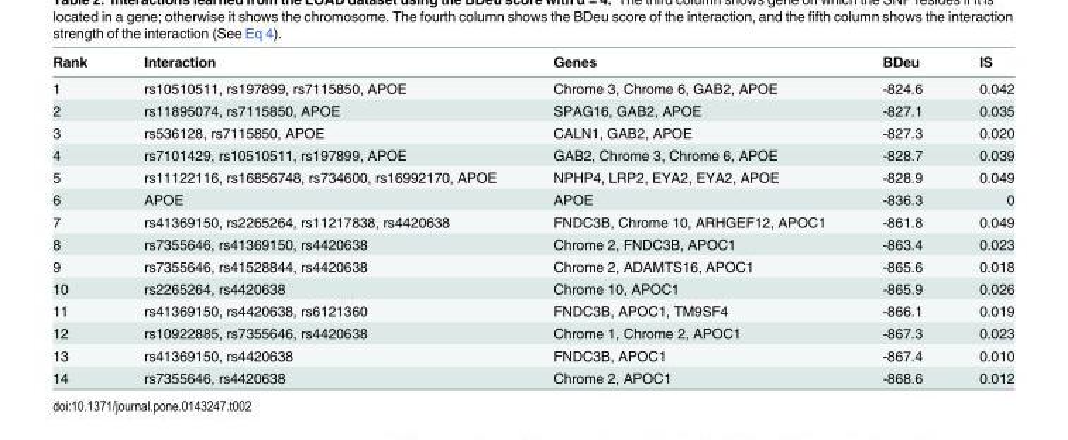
<table><thead><tr><td>Rank</td><td>Interaction</td><td>Genes</td><td>BDeu</td><td>IS</td></tr></thead><tbody><tr><td>1</td><td>rs10510511, rs197899, rs7115850, APOE</td><td>Chrome 3, Chrome 6, GAB2, APOE</td><td>-824.6</td><td>0.042</td></tr><tr><td>2</td><td>rs11895074, rs7115850, APOE</td><td>SPAG16, GAB2, APOE</td><td>-827.1</td><td>0.035</td></tr><tr><td>3</td><td>rs536128, rs7115850, APOE</td><td>CALN1, GAB2, APOE</td><td>-827.3</td><td>0.020</td></tr><tr><td>4</td><td>rs7101429, rs10510511, rs197899, APOE</td><td>GAB2, Chrome 3, Chrome 6, APOE</td><td>-828.7</td><td>0.039</td></tr><tr><td>5</td><td>rs11122116, rs16856748, rs734600, rs16992170, APOE</td><td>NPHP4, LRP2, EYA2, EYA2, APOE</td><td>-828.9</td><td>0.049</td></tr><tr><td>6</td><td>APOE</td><td>APOE</td><td>-836.3</td><td>0</td></tr><tr><td>7</td><td>rs41369150, rs2265264, rs11217838, rs4420638</td><td>FNDC3B, Chrome 10, ARHGEF12, APOC1</td><td>-861.8</td><td>0.049</td></tr><tr><td>8</td><td>rs7355646, rs41369150, rs4420638</td><td>Chrome 2, FNDC3B, APOC1</td><td>-863.4</td><td>0.023</td></tr><tr><td>9</td><td>rs7355646, rs41528844, rs4420638</td><td>Chrome 2, ADAMTS16, APOC1</td><td>-865.6</td><td>0.018</td></tr><tr><td>10</td><td>rs2265264, rs4420638</td><td>Chrome 10, APOC1</td><td>-865.9</td><td>0.026</td></tr><tr><td>11</td><td>rs41369150, rs4420638, rs6121360</td><td>FNDC3B, APOC1, TM9SF4</td><td>-866.1</td><td>0.019</td></tr><tr><td>12</td><td>rs10922885, rs7355646, rs4420638</td><td>Chrome 1, Chrome 2, APOC1</td><td>-867.3</td><td>0.023</td></tr><tr><td>13</td><td>rs41369150, rs4420638</td><td>FNDC3B, APOC1</td><td>-867.4</td><td>0.010</td></tr><tr><td>14</td><td>rs7355646, rs4420638</td><td>Chrome 2, APOC1</td><td>-868.6</td><td>0.012</td></tr></tbody></table>